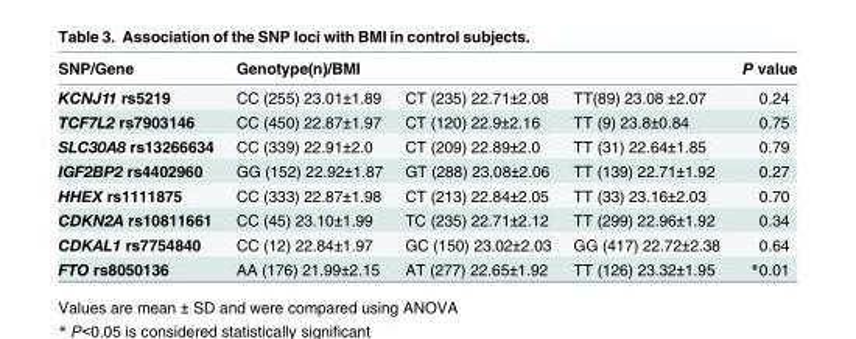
<table><thead><tr><td rowspan="2">SNP/Gene KCNJ11 rs5219</td><td colspan="3">Genotype(n)/BMI</td><td rowspan="2">P value 0.24</td></tr><tr><td>CC (255) 23.01±1.89</td><td>CT (235) 22.71±2.08</td><td>TT(89) 23.08 ±2.07</td></tr></thead><tbody><tr><td>TCF7L2 rs7903146</td><td>CC (450) 22.87±1.97</td><td>CT (120) 22.9±2.16</td><td>TT (9) 23.8±0.84</td><td>0.75</td></tr><tr><td>SLC30A8 rs13266634</td><td>CC (339) 22.91±2.0</td><td>CT (209) 22.89±2.0</td><td>TT (31) 22.64±1.85</td><td>0.79</td></tr><tr><td>IGF2BP2 rs4402960</td><td>GG (152) 22.92±1.87</td><td>GT (288) 23.08±2.06</td><td>TT (139) 22.71±1.92</td><td>0.27</td></tr><tr><td>HHEX rs1111875</td><td>CC (333) 22.87±1.98</td><td>CT (213) 22.84±2.05</td><td>TT (33) 23.16±2.03</td><td>0.70</td></tr><tr><td>CDKN2A rs10811661</td><td>CC (45) 23.10±1.99</td><td>TC (235) 22.71±2.12</td><td>TT (299) 22.96±1.92</td><td>0.34</td></tr><tr><td>CDKAL1 rs7754840</td><td>CC (12) 22.84±1.97</td><td>GC (150) 23.02±2.03</td><td>GG (417) 22.72±2.38</td><td>0.64</td></tr><tr><td>FTO rs8050136</td><td>AA (176) 21.99±2.15</td><td>AT (277) 22.65±1.92</td><td>TT (126) 23.32±1.95</td><td>*0.01</td></tr></tbody></table>